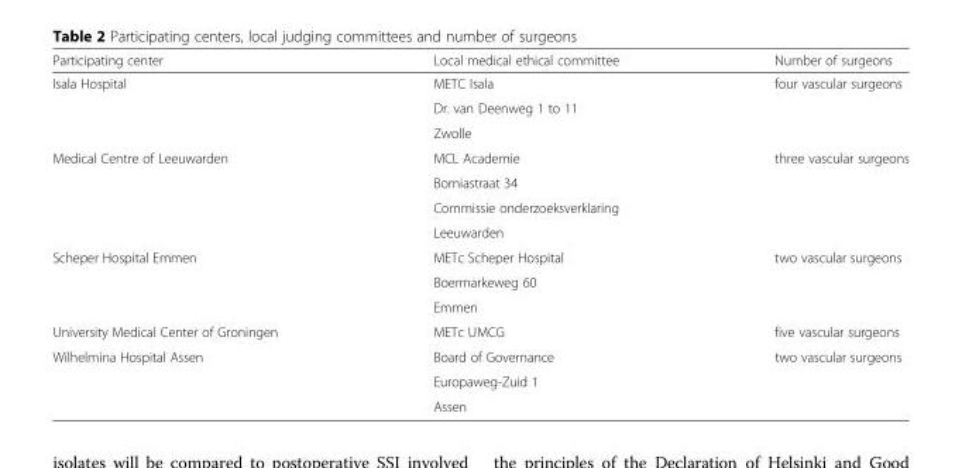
<table><thead><tr><td>Participating center</td><td>Local medical ethical committee</td><td>Number of surgeons</td></tr></thead><tbody><tr><td rowspan="3">Isala Hospital</td><td>METC Isala</td><td rowspan="3">four vascular surgeons</td></tr><tr><td>Dr. van Deenweg 1 to 11</td></tr><tr><td>Zwolle</td></tr><tr><td rowspan="4">Medical Centre of Leeuwarden</td><td>MCL Academie</td><td rowspan="4">three vascular surgeons</td></tr><tr><td>Borniastraat 34</td></tr><tr><td>Commissie onderzoeksverklaring</td></tr><tr><td>Leeuwarden</td></tr><tr><td rowspan="3">Scheper Hospital Emmen</td><td>METc Scheper Hospital</td><td rowspan="3">two vascular surgeons</td></tr><tr><td>Boermarkeweg 60</td></tr><tr><td>Emmen</td></tr><tr><td>University Medical Center of Groningen</td><td>METc UMCG</td><td>five vascular surgeons</td></tr><tr><td rowspan="3">Wilhelmina Hospital Assen</td><td>Board of Governance</td><td rowspan="3">two vascular surgeons</td></tr><tr><td>Europaweg-Zuid 1</td></tr><tr><td>Assen</td></tr></tbody></table>